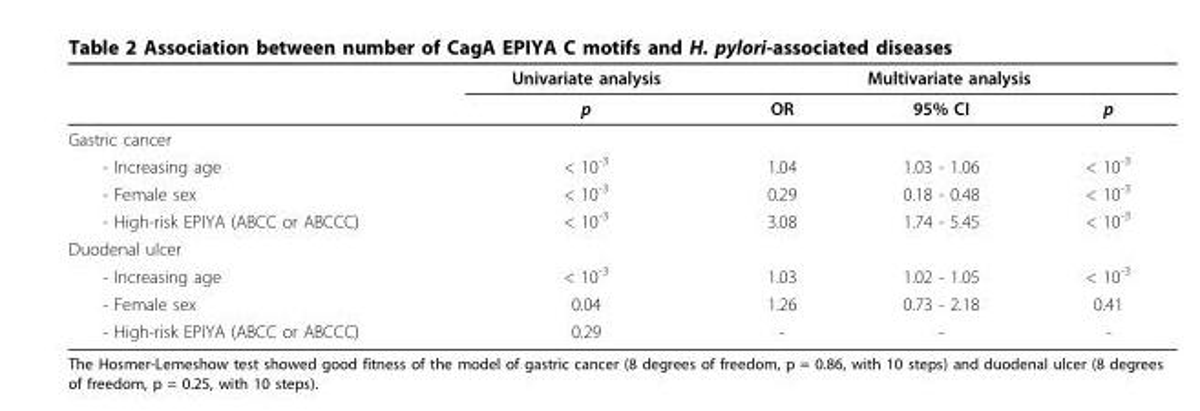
<table><thead><tr><td rowspan="2"></td><td rowspan="2">Univariate analysis p</td><td colspan="3">Multivariate analysis</td></tr><tr><td>OR</td><td>95% CI</td><td>p</td></tr></thead><tbody><tr><td colspan="5">Gastric cancer</td></tr><tr><td>- Increasing age</td><td>&lt; 10<sup>-3</sup></td><td>1.04</td><td>1.03 - 1.06</td><td>&lt; 10<sup>-3</sup></td></tr><tr><td>- Female sex</td><td>&lt; 10<sup>-3</sup></td><td>0.29</td><td>0.18 - 0.48</td><td>&lt; 10<sup>-3</sup></td></tr><tr><td>- High-risk EPIYA (ABCC or ABCCC)</td><td>&lt; 10<sup>-3</sup></td><td>3.08</td><td>1.74 - 5.45</td><td>&lt; 10<sup>-3</sup></td></tr><tr><td colspan="5">Duodenal ulcer</td></tr><tr><td>- Increasing age</td><td>&lt; 10<sup>-3</sup></td><td>1.03</td><td>1.02 - 1.05</td><td>&lt; 10<sup>-3</sup></td></tr><tr><td>- Female sex</td><td>0.04</td><td>1.26</td><td>0.73 - 2.18</td><td>0.41</td></tr><tr><td>- High-risk EPIYA (ABCC or ABCCC)</td><td>0.29</td><td>-</td><td>-</td><td>-</td></tr></tbody></table>